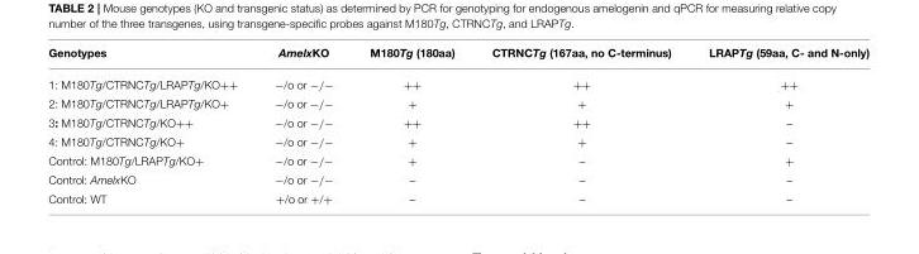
<table><thead><tr><td>Genotypes</td><td>AmelxKO</td><td>M180Tg (180aa)</td><td>CTRNCTg (167aa, no C-terminus)</td><td>LRAPTg (59aa, C- and N-only)</td></tr></thead><tbody><tr><td>1: M180Tg/CTRNCTg/LRAPTg/KO++</td><td>−/o or −/−</td><td>++</td><td>++</td><td>++</td></tr><tr><td>2: M180Tg/CTRNCTg/LRAPTg/KO+</td><td>−/o or −/−</td><td>+</td><td>+</td><td>+</td></tr><tr><td>3: M180Tg/CTRNCTg/KO++</td><td>−/o or −/−</td><td>++</td><td>++</td><td>–</td></tr><tr><td>4: M180Tg/CTRNCTg/KO+</td><td>−/o or −/−</td><td>+</td><td>+</td><td>–</td></tr><tr><td>Control: M180Tg/LRAPTg/KO+</td><td>−/o or −/−</td><td>+</td><td>–</td><td>+</td></tr><tr><td>Control: AmelxKO</td><td>−/o or −/−</td><td>–</td><td>–</td><td>–</td></tr><tr><td>Control: WT</td><td>+/o or +/+</td><td>–</td><td>–</td><td>–</td></tr></tbody></table>